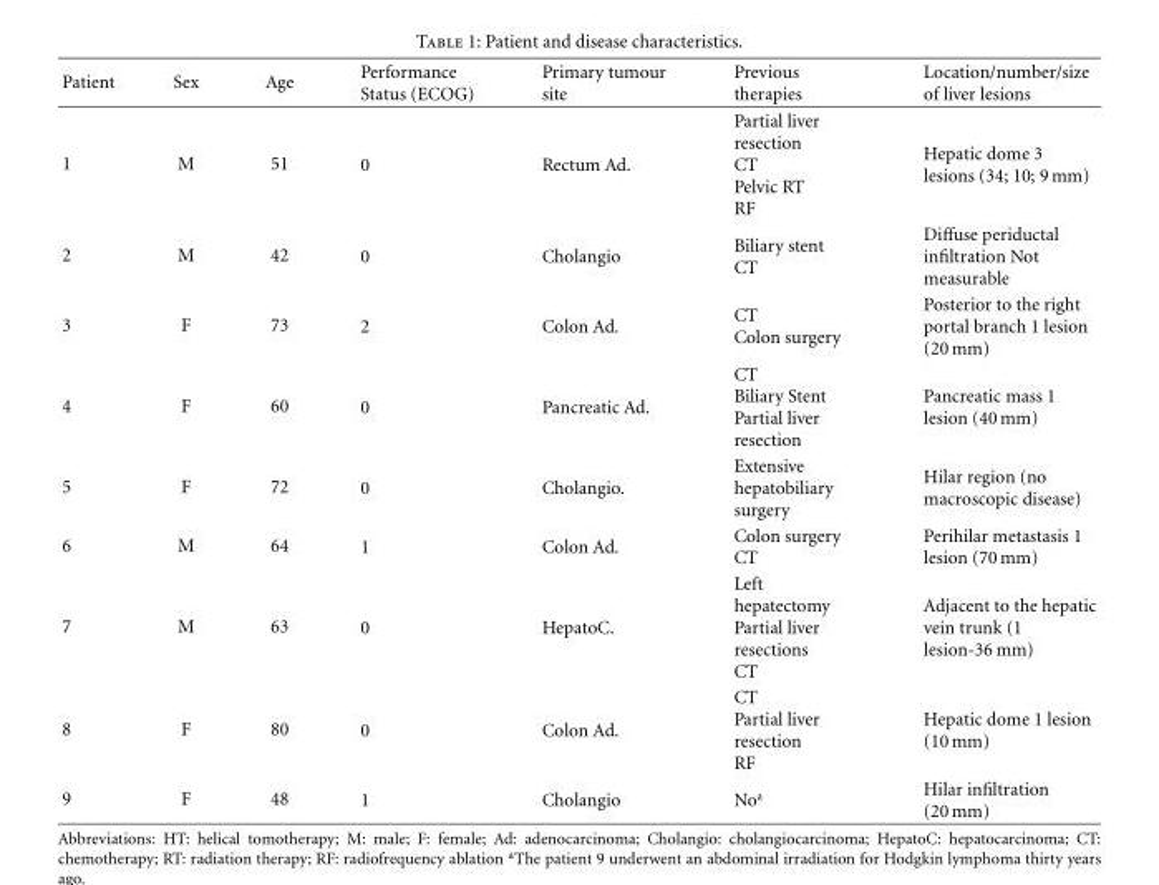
<table><thead><tr><td>Patient</td><td>Sex</td><td>Age</td><td>Performance Status (ECOG)</td><td>Primary tumour site</td><td>Previous therapies</td><td>Location/number/size of liver lesions</td></tr></thead><tbody><tr><td>1</td><td>M</td><td>51</td><td>0</td><td>Rectum Ad.</td><td>Partial liver resection CT Pelvic RT RF</td><td>Hepatic dome 3 lesions (34; 10; 9 mm)</td></tr><tr><td>2</td><td>M</td><td>42</td><td>0</td><td>Cholangio</td><td>Biliary stent CT</td><td>Diffuse periductal infiltration Not measurable</td></tr><tr><td>3</td><td>F</td><td>73</td><td>2</td><td>Colon Ad.</td><td>CT Colon surgery</td><td>Posterior to the right portal branch 1 lesion (20 mm)</td></tr><tr><td>4</td><td>F</td><td>60</td><td>0</td><td>Pancreatic Ad.</td><td>CT Biliary Stent Partial liver resection</td><td>Pancreatic mass 1 lesion (40 mm)</td></tr><tr><td>5</td><td>F</td><td>72</td><td>0</td><td>Cholangio.</td><td>Extensive hepatobiliary surgery</td><td>Hilar region (no macroscopic disease)</td></tr><tr><td>6</td><td>M</td><td>64</td><td>1</td><td>Colon Ad.</td><td>Colon surgery CT</td><td>Perihilar metastasis 1 lesion (70 mm)</td></tr><tr><td>7</td><td>M</td><td>63</td><td>0</td><td>HepatoC.</td><td>Left hepatectomy Partial liver resections CT</td><td>Adjacent to the hepatic vein trunk (1 lesion-36 mm)</td></tr><tr><td>8</td><td>F</td><td>80</td><td>0</td><td>Colon Ad.</td><td>CT Partial liver resection RF</td><td>Hepatic dome 1 lesion (10 mm)</td></tr><tr><td>9</td><td>F</td><td>48</td><td>1</td><td>Cholangio</td><td>No<sup>a</sup></td><td>Hilar infiltration (20 mm)</td></tr></tbody></table>